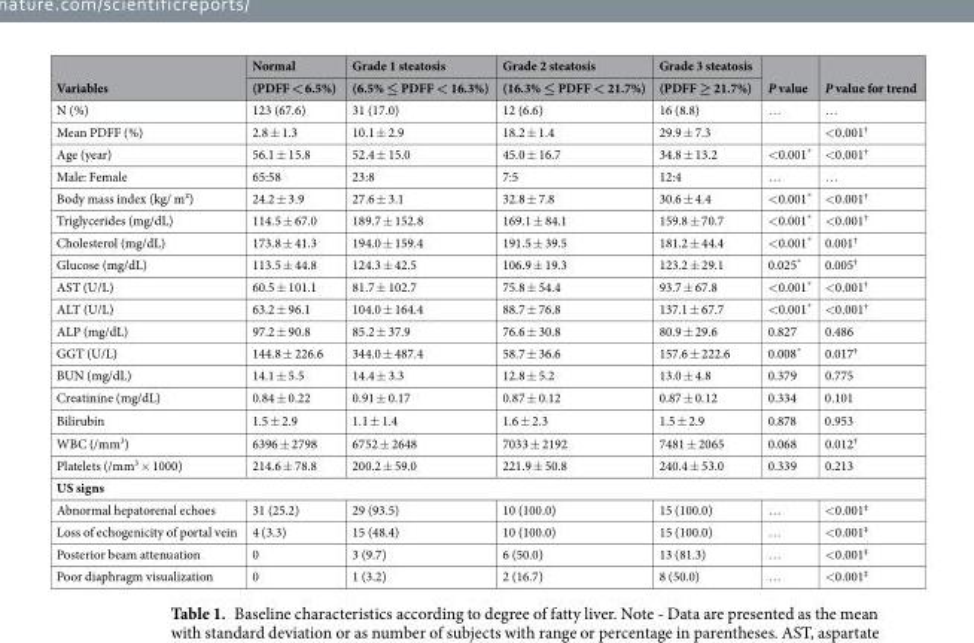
<table><thead><tr><td rowspan="2">Variables</td><td rowspan="2">Normal (PDFF &lt; 6.5%)</td><td rowspan="2">Grade 1 steatosis (6.5% ≤ PDFF &lt; 16.3%)</td><td rowspan="2">Grade 2 steatosis (16.3% ≤ PDFF &lt; 21.7%)</td><td rowspan="2">Grade 3 steatosis (PDFF ≥ 21.7%)</td><td rowspan="2">P value</td><td rowspan="2">P value for trend</td></tr><tr></tr></thead><tbody><tr><td>N (%)</td><td>123 (67.6)</td><td>31 (17.0)</td><td>12 (6.6)</td><td>16 (8.8)</td><td>…</td><td>…</td></tr><tr><td>Mean PDFF (%)</td><td>2.8 ± 1.3</td><td>10.1 ± 2.9</td><td>18.2 ± 1.4</td><td>29.9 ± 7.3</td><td></td><td>&lt;0.001<sup>†</sup></td></tr><tr><td>Age (year)</td><td>56.1 ± 15.8</td><td>52.4 ± 15.0</td><td>45.0 ± 16.7</td><td>34.8 ± 13.2</td><td>&lt;0.001*</td><td>&lt;0.001<sup>†</sup></td></tr><tr><td>Male: Female</td><td>65:58</td><td>23:8</td><td>7:5</td><td>12:4</td><td>…</td><td>…</td></tr><tr><td>Body mass index (kg/ m²)</td><td>24.2 ± 3.9</td><td>27.6 ± 3.1</td><td>32.8 ± 7.8</td><td>30.6 ± 4.4</td><td>&lt;0.001*</td><td>&lt;0.001<sup>†</sup></td></tr><tr><td>Triglycerides (mg/dL)</td><td>114.5 ± 67.0</td><td>189.7 ± 152.8</td><td>169.1 ± 84.1</td><td>159.8 ± 70.7</td><td>&lt;0.001*</td><td>&lt;0.001<sup>†</sup></td></tr><tr><td>Cholesterol (mg/dL)</td><td>173.8 ± 41.3</td><td>194.0 ± 159.4</td><td>191.5 ± 39.5</td><td>181.2 ± 44.4</td><td>&lt;0.001*</td><td>0.001<sup>†</sup></td></tr><tr><td>Glucose (mg/dL)</td><td>113.5 ± 44.8</td><td>124.3 ± 42.5</td><td>106.9 ± 19.3</td><td>123.2 ± 29.1</td><td>0.025*</td><td>0.005<sup>†</sup></td></tr><tr><td>AST (U/L)</td><td>60.5 ± 101.1</td><td>81.7 ± 102.7</td><td>75.8 ± 54.4</td><td>93.7 ± 67.8</td><td>&lt;0.001*</td><td>&lt;0.001<sup>†</sup></td></tr><tr><td>ALT (U/L)</td><td>63.2 ± 96.1</td><td>104.0 ± 164.4</td><td>88.7 ± 76.8</td><td>137.1 ± 67.7</td><td>&lt;0.001*</td><td>&lt;0.001<sup>†</sup></td></tr><tr><td>ALP (mg/dL)</td><td>97.2 ± 90.8</td><td>85.2 ± 37.9</td><td>76.6 ± 30.8</td><td>80.9 ± 29.6</td><td>0.827</td><td>0.486</td></tr><tr><td>GGT (U/L)</td><td>144.8 ± 226.6</td><td>344.0 ± 487.4</td><td>58.7 ± 36.6</td><td>157.6 ± 222.6</td><td>0.008*</td><td>0.017<sup>†</sup></td></tr><tr><td>BUN (mg/dL)</td><td>14.1 ± 5.5</td><td>14.4 ± 3.3</td><td>12.8 ± 5.2</td><td>13.0 ± 4.8</td><td>0.379</td><td>0.775</td></tr><tr><td>Creatinine (mg/dL)</td><td>0.84 ± 0.22</td><td>0.91 ± 0.17</td><td>0.87 ± 0.12</td><td>0.87 ± 0.12</td><td>0.334</td><td>0.101</td></tr><tr><td>Bilirubin</td><td>1.5 ± 2.9</td><td>1.1 ± 1.4</td><td>1.6 ± 2.3</td><td>1.5 ± 2.9</td><td>0.878</td><td>0.953</td></tr><tr><td>WBC (/mm<sup>3</sup>)</td><td>6396 ± 2798</td><td>6752 ± 2648</td><td>7033 ± 2192</td><td>7481 ± 2065</td><td>0.068</td><td>0.012<sup>†</sup></td></tr><tr><td>Platelets (/mm<sup>3</sup> × 1000)</td><td>214.6 ± 78.8</td><td>200.2 ± 59.0</td><td>221.9 ± 50.8</td><td>240.4 ± 53.0</td><td>0.339</td><td>0.213</td></tr><tr><td colspan="7">US signs</td></tr><tr><td>Abnormal hepatorenal echoes</td><td>31 (25.2)</td><td>29 (93.5)</td><td>10 (100.0)</td><td>15 (100.0)</td><td>…</td><td>&lt;0.001<sup>‡</sup></td></tr><tr><td>Loss of echogenicity of portal vein</td><td>4 (3.3)</td><td>15 (48.4)</td><td>10 (100.0)</td><td>15 (100.0)</td><td>…</td><td>&lt;0.001<sup>‡</sup></td></tr><tr><td>Posterior beam attenuation</td><td>0</td><td>3 (9.7)</td><td>6 (50.0)</td><td>13 (81.3)</td><td>…</td><td>&lt;0.001<sup>‡</sup></td></tr><tr><td>Poor diaphragm visualization</td><td>0</td><td>1 (3.2)</td><td>2 (16.7)</td><td>8 (50.0)</td><td>…</td><td>&lt;0.001<sup>‡</sup></td></tr></tbody></table>